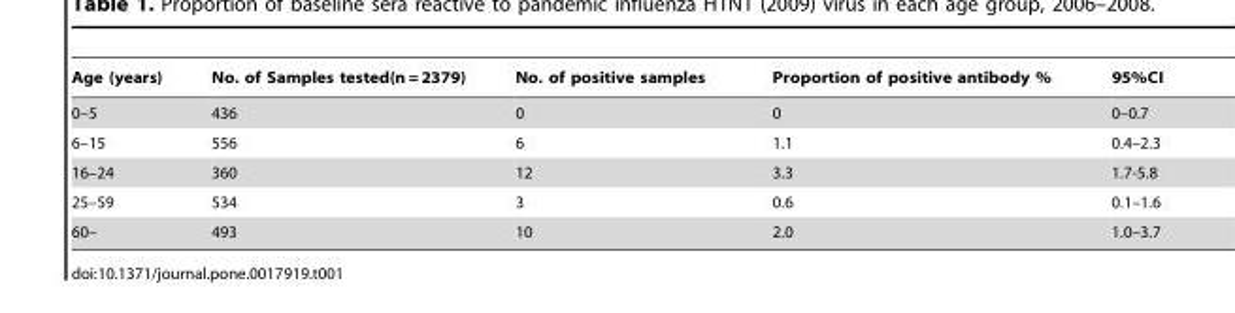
<table><thead><tr><td>Age (years)</td><td>No. of Samples tested(n = 2379)</td><td>No. of positive samples</td><td>Proportion of positive antibody %</td><td>95%CI</td></tr></thead><tbody><tr><td>0–5</td><td>436</td><td>0</td><td>0</td><td>0–0.7</td></tr><tr><td>6–15</td><td>556</td><td>6</td><td>1.1</td><td>0.4–2.3</td></tr><tr><td>16–24</td><td>360</td><td>12</td><td>3.3</td><td>1.7-5.8</td></tr><tr><td>25–59</td><td>534</td><td>3</td><td>0.6</td><td>0.1–1.6</td></tr><tr><td>60–</td><td>493</td><td>10</td><td>2.0</td><td>1.0–3.7</td></tr></tbody></table>